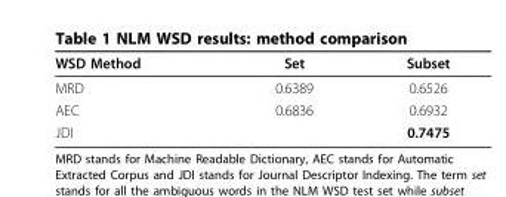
<table><thead><tr><td>WSD Method</td><td>Set</td><td>Subset</td></tr></thead><tbody><tr><td>MRD</td><td>0.6389</td><td>0.6526</td></tr><tr><td>AEC</td><td>0.6836</td><td>0.6932</td></tr><tr><td>JDI</td><td></td><td>0.7475</td></tr></tbody></table>